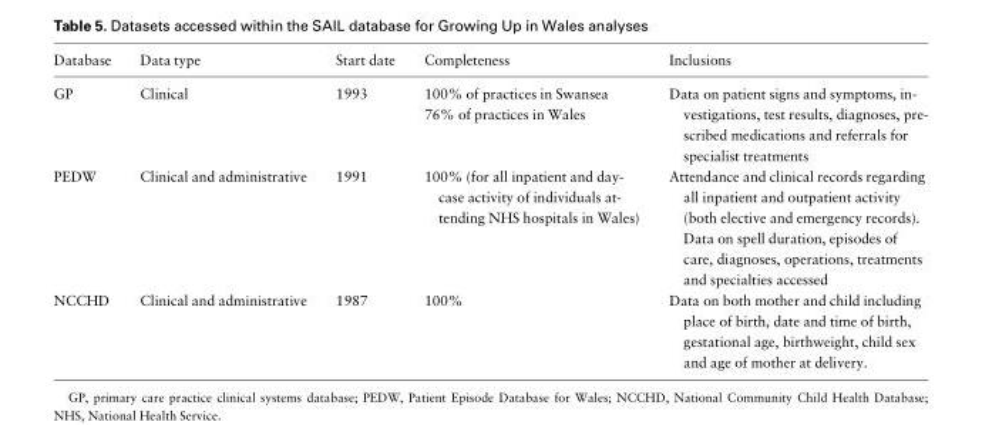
<table><thead><tr><td>Database</td><td>Data type</td><td>Start date</td><td>Completeness</td><td>Inclusions</td></tr></thead><tbody><tr><td rowspan="2">GP</td><td rowspan="2">Clinical</td><td rowspan="2">1993</td><td>100% of practices in Swansea</td><td rowspan="2">Data on patient signs and symptoms, in- vestigations, test results, diagnoses, pre- scribed medications and referrals for specialist treatments</td></tr><tr><td>76% of practices in Wales</td></tr><tr><td>PEDW</td><td>Clinical and administrative</td><td>1991</td><td>100% (for all inpatient and day- case activity of individuals at- tending NHS hospitals in Wales)</td><td>Attendance and clinical records regarding all inpatient and outpatient activity (both elective and emergency records). Data on spell duration, episodes of care, diagnoses, operations, treatments and specialties accessed</td></tr><tr><td>NCCHD</td><td>Clinical and administrative</td><td>1987</td><td>100%</td><td>Data on both mother and child including place of birth, date and time of birth, gestational age, birthweight, child sex and age of mother at delivery.</td></tr></tbody></table>